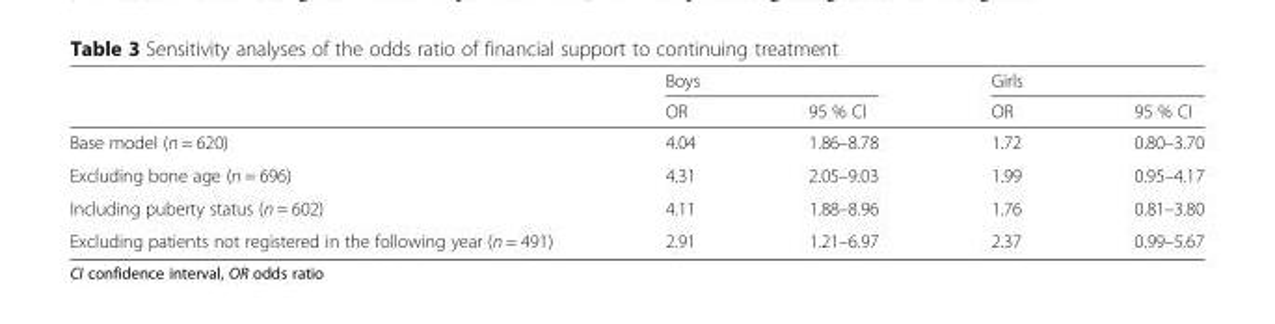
<table><thead><tr><td rowspan="2"></td><td colspan="2">Boys</td><td colspan="2">Girls</td></tr><tr><td>OR</td><td>95 % CI</td><td>OR</td><td>95 % CI</td></tr></thead><tbody><tr><td>Base model (n = 620)</td><td>4.04</td><td>1.86–8.78</td><td>1.72</td><td>0.80–3.70</td></tr><tr><td>Excluding bone age (n = 696)</td><td>4.31</td><td>2.05–9.03</td><td>1.99</td><td>0.95–4.17</td></tr><tr><td>Including puberty status (n = 602)</td><td>4.11</td><td>1.88–8.96</td><td>1.76</td><td>0.81–3.80</td></tr><tr><td>Excluding patients not registered in the following year (n = 491)</td><td>2.91</td><td>1.21–6.97</td><td>2.37</td><td>0.99–5.67</td></tr></tbody></table>